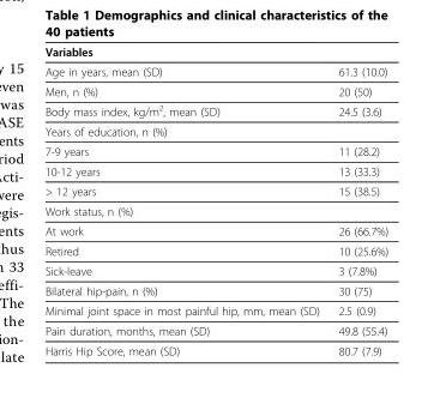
<table><thead><tr><td>Variables</td><td></td></tr></thead><tbody><tr><td>Age in years, mean (SD)</td><td>61.3 (10.0)</td></tr><tr><td>Men, n (%)</td><td>20 (50)</td></tr><tr><td>Body mass index, kg/m<sup>2</sup>, mean (SD)</td><td>24.5 (3.6)</td></tr><tr><td colspan="2">Years of education, n (%)</td></tr><tr><td>7-9 years</td><td>11 (28.2)</td></tr><tr><td>10-12 years</td><td>13 (33.3)</td></tr><tr><td>&gt; 12 years</td><td>15 (38.5)</td></tr><tr><td colspan="2">Work status, n (%)</td></tr><tr><td>At work</td><td>26 (66.7%)</td></tr><tr><td>Retired</td><td>10 (25.6%)</td></tr><tr><td>Sick-leave</td><td>3 (7.8%)</td></tr><tr><td>Bilateral hip-pain, n (%)</td><td>30 (75)</td></tr><tr><td>Minimal joint space in most painful hip, mm, mean (SD)</td><td>2.5 (0.9)</td></tr><tr><td>Pain duration, months, mean (SD)</td><td>49.8 (55.4)</td></tr><tr><td>Harris Hip Score, mean (SD)</td><td>80.7 (7.9)</td></tr></tbody></table>